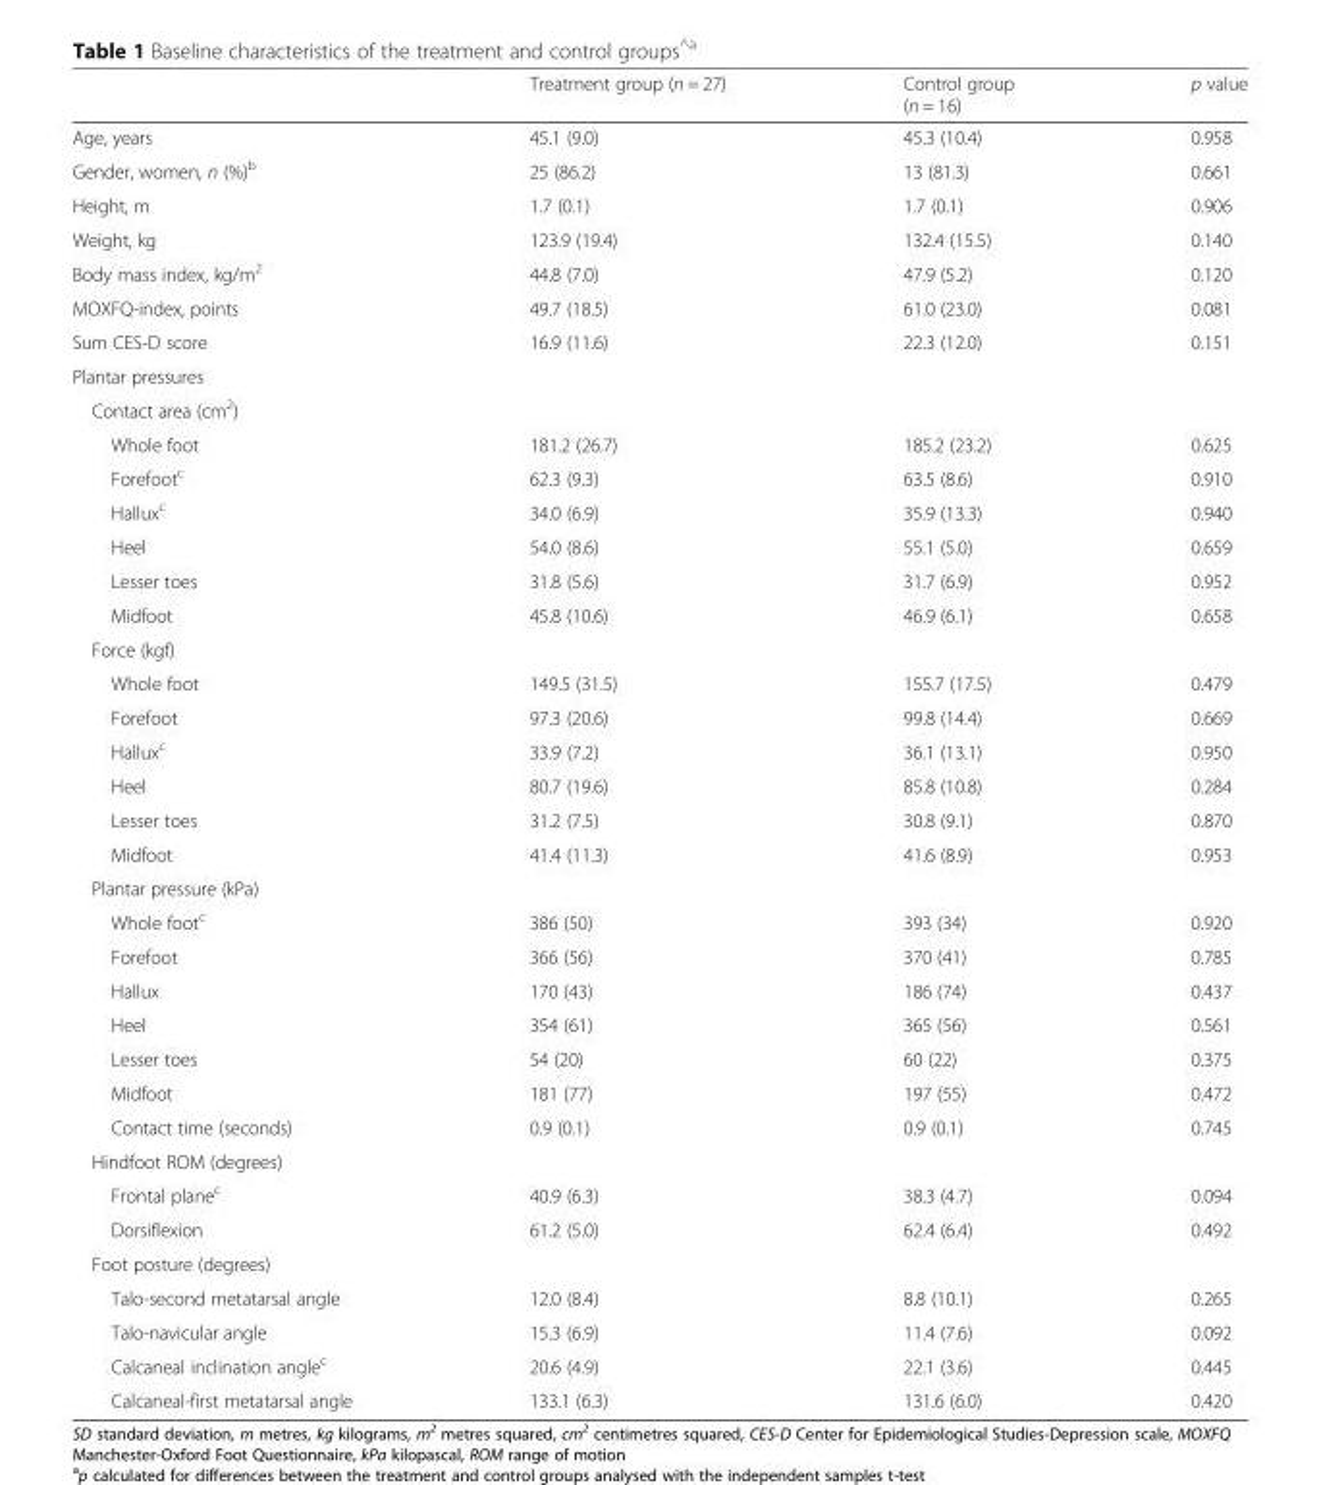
<table><thead><tr><td></td><td>Treatment group (n = 27)</td><td>Control group (n = 16)</td><td>p value</td></tr></thead><tbody><tr><td>Age, years</td><td>45.1 (9.0)</td><td>45.3 (10.4)</td><td>0.958</td></tr><tr><td>Gender, women, n (%)<sup>b</sup></td><td>25 (86.2)</td><td>13 (81.3)</td><td>0.661</td></tr><tr><td>Height, m</td><td>1.7 (0.1)</td><td>1.7 (0.1)</td><td>0.906</td></tr><tr><td>Weight, kg</td><td>123.9 (19.4)</td><td>132.4 (15.5)</td><td>0.140</td></tr><tr><td>Body mass index, kg/m<sup>2</sup></td><td>44.8 (7.0)</td><td>47.9 (5.2)</td><td>0.120</td></tr><tr><td>MOXFQ-index, points</td><td>49.7 (18.5)</td><td>61.0 (23.0)</td><td>0.081</td></tr><tr><td>Sum CES-D score</td><td>16.9 (11.6)</td><td>22.3 (12.0)</td><td>0.151</td></tr><tr><td colspan="4">Plantar pressures</td></tr><tr><td colspan="4">Contact area (cm<sup>2</sup>)</td></tr><tr><td>Whole foot</td><td>181.2 (26.7)</td><td>185.2 (23.2)</td><td>0.625</td></tr><tr><td>Forefoot<sup>c</sup></td><td>62.3 (9.3)</td><td>63.5 (8.6)</td><td>0.910</td></tr><tr><td>Hallux<sup>c</sup></td><td>34.0 (6.9)</td><td>35.9 (13.3)</td><td>0.940</td></tr><tr><td>Heel</td><td>54.0 (8.6)</td><td>55.1 (5.0)</td><td>0.659</td></tr><tr><td>Lesser toes</td><td>31.8 (5.6)</td><td>31.7 (6.9)</td><td>0.952</td></tr><tr><td>Midfoot</td><td>45.8 (10.6)</td><td>46.9 (6.1)</td><td>0.658</td></tr><tr><td colspan="4">Force (kgf)</td></tr><tr><td>Whole foot</td><td>149.5 (31.5)</td><td>155.7 (17.5)</td><td>0.479</td></tr><tr><td>Forefoot</td><td>97.3 (20.6)</td><td>99.8 (14.4)</td><td>0.669</td></tr><tr><td>Hallux<sup>c</sup></td><td>33.9 (7.2)</td><td>36.1 (13.1)</td><td>0.950</td></tr><tr><td>Heel</td><td>80.7 (19.6)</td><td>85.8 (10.8)</td><td>0.284</td></tr><tr><td>Lesser toes</td><td>31.2 (7.5)</td><td>30.8 (9.1)</td><td>0.870</td></tr><tr><td>Midfoot</td><td>41.4 (11.3)</td><td>41.6 (8.9)</td><td>0.953</td></tr><tr><td colspan="4">Plantar pressure (kPa)</td></tr><tr><td>Whole foot<sup>c</sup></td><td>386 (50)</td><td>393 (34)</td><td>0.920</td></tr><tr><td>Forefoot</td><td>366 (56)</td><td>370 (41)</td><td>0.785</td></tr><tr><td>Hallux</td><td>170 (43)</td><td>186 (74)</td><td>0.437</td></tr><tr><td>Heel</td><td>354 (61)</td><td>365 (56)</td><td>0.561</td></tr><tr><td>Lesser toes</td><td>54 (20)</td><td>60 (22)</td><td>0.375</td></tr><tr><td>Midfoot</td><td>181 (77)</td><td>197 (55)</td><td>0.472</td></tr><tr><td>Contact time (seconds)</td><td>0.9 (0.1)</td><td>0.9 (0.1)</td><td>0.745</td></tr><tr><td colspan="4">Hindfoot ROM (degrees)</td></tr><tr><td>Frontal plane<sup>c</sup></td><td>40.9 (6.3)</td><td>38.3 (4.7)</td><td>0.094</td></tr><tr><td>Dorsiflexion</td><td>61.2 (5.0)</td><td>62.4 (6.4)</td><td>0.492</td></tr><tr><td colspan="4">Foot posture (degrees)</td></tr><tr><td>Talo-second metatarsal angle</td><td>12.0 (8.4)</td><td>8.8 (10.1)</td><td>0.265</td></tr><tr><td>Talo-navicular angle</td><td>15.3 (6.9)</td><td>11.4 (7.6)</td><td>0.092</td></tr><tr><td>Calcaneal inclination angle<sup>c</sup></td><td>20.6 (4.9)</td><td>22.1 (3.6)</td><td>0.445</td></tr><tr><td>Calcaneal-first metatarsal angle</td><td>133.1 (6.3)</td><td>131.6 (6.0)</td><td>0.420</td></tr></tbody></table>